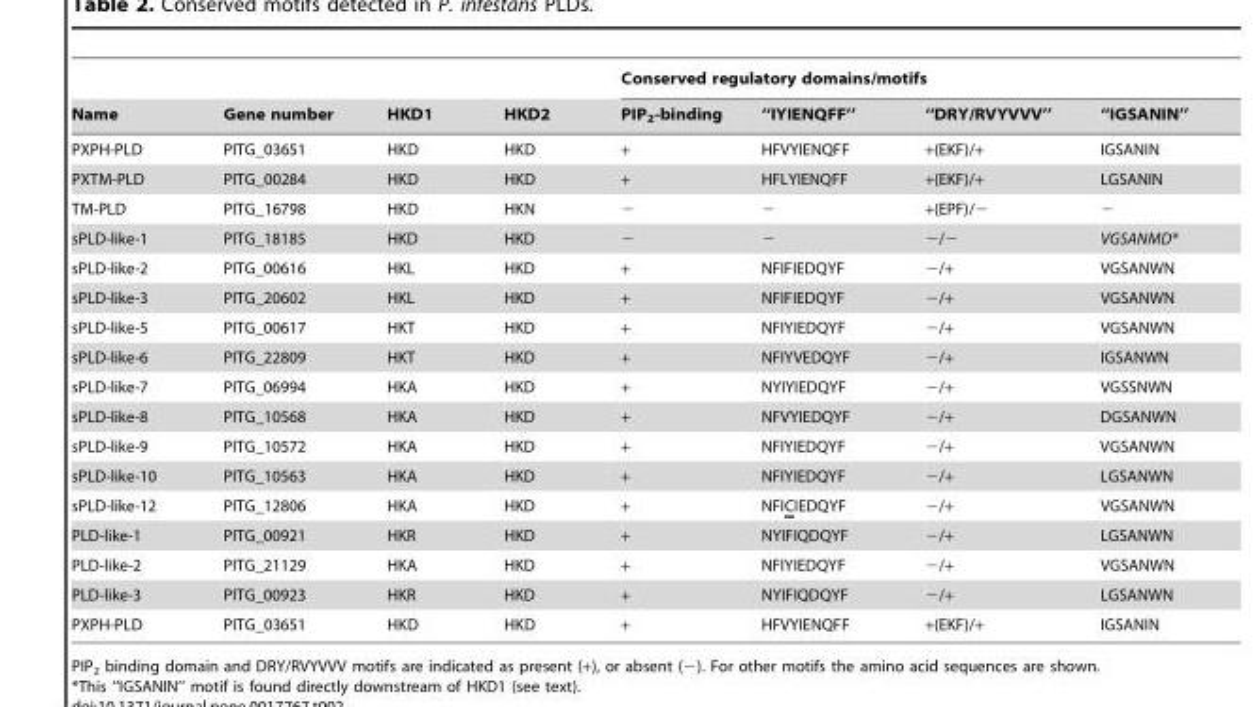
<table><thead><tr><td rowspan="2">Name</td><td rowspan="2">Gene number</td><td rowspan="2">HKD1</td><td rowspan="2">HKD2</td><td colspan="4">Conserved regulatory domains/motifs</td></tr><tr><td>PIP<sub>2</sub>-binding</td><td>‘‘IYIENQFF’’</td><td>‘‘DRY/RVYVVV’’</td><td>‘‘IGSANIN’’</td></tr></thead><tbody><tr><td>PXPH-PLD</td><td>PITG_03651</td><td>HKD</td><td>HKD</td><td>+</td><td>HFVYIENQFF</td><td>+(EKF)/+</td><td>IGSANIN</td></tr><tr><td>PXTM-PLD</td><td>PITG_00284</td><td>HKD</td><td>HKD</td><td>+</td><td>HFLYIENQFF</td><td>+(EKF)/+</td><td>LGSANIN</td></tr><tr><td>TM-PLD</td><td>PITG_16798</td><td>HKD</td><td>HKN</td><td>−</td><td>−</td><td>+(EPF)/−</td><td>−</td></tr><tr><td>sPLD-like-1</td><td>PITG_18185</td><td>HKD</td><td>HKD</td><td>−</td><td>−</td><td>−/−</td><td>VGSANMD*</td></tr><tr><td>sPLD-like-2</td><td>PITG_00616</td><td>HKL</td><td>HKD</td><td>+</td><td>NFIFIEDQYF</td><td>−/+</td><td>VGSANWN</td></tr><tr><td>sPLD-like-3</td><td>PITG_20602</td><td>HKL</td><td>HKD</td><td>+</td><td>NFIFIEDQYF</td><td>−/+</td><td>VGSANWN</td></tr><tr><td>sPLD-like-5</td><td>PITG_00617</td><td>HKT</td><td>HKD</td><td>+</td><td>NFIYIEDQYF</td><td>−/+</td><td>VGSANWN</td></tr><tr><td>sPLD-like-6</td><td>PITG_22809</td><td>HKT</td><td>HKD</td><td>+</td><td>NFIYVEDQYF</td><td>−/+</td><td>IGSANWN</td></tr><tr><td>sPLD-like-7</td><td>PITG_06994</td><td>HKA</td><td>HKD</td><td>+</td><td>NYIYIEDQYF</td><td>−/+</td><td>VGSSNWN</td></tr><tr><td>sPLD-like-8</td><td>PITG_10568</td><td>HKA</td><td>HKD</td><td>+</td><td>NFVYIEDQYF</td><td>−/+</td><td>DGSANWN</td></tr><tr><td>sPLD-like-9</td><td>PITG_10572</td><td>HKA</td><td>HKD</td><td>+</td><td>NFIYIEDQYF</td><td>−/+</td><td>VGSANWN</td></tr><tr><td>sPLD-like-10</td><td>PITG_10563</td><td>HKA</td><td>HKD</td><td>+</td><td>NFIYIEDQYF</td><td>−/+</td><td>LGSANWN</td></tr><tr><td>sPLD-like-12</td><td>PITG_12806</td><td>HKA</td><td>HKD</td><td>+</td><td>NFICIEDQYF</td><td>−/+</td><td>VGSANWN</td></tr><tr><td>PLD-like-1</td><td>PITG_00921</td><td>HKR</td><td>HKD</td><td>+</td><td>NYIFIQDQYF</td><td>−/+</td><td>LGSANWN</td></tr><tr><td>PLD-like-2</td><td>PITG_21129</td><td>HKA</td><td>HKD</td><td>+</td><td>NFIYIEDQYF</td><td>−/+</td><td>VGSANWN</td></tr><tr><td>PLD-like-3</td><td>PITG_00923</td><td>HKR</td><td>HKD</td><td>+</td><td>NYIFIQDQYF</td><td>−/+</td><td>LGSANWN</td></tr><tr><td>PXPH-PLD</td><td>PITG_03651</td><td>HKD</td><td>HKD</td><td>+</td><td>HFVYIENQFF</td><td>+(EKF)/+</td><td>IGSANIN</td></tr></tbody></table>